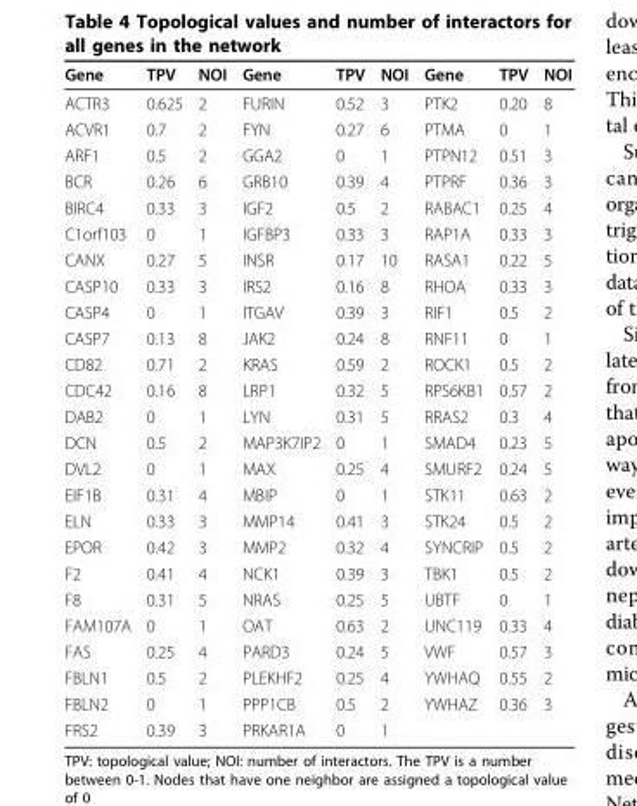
<table><thead><tr><td>Gene</td><td>TPV</td><td>NOI</td><td>Gene</td><td>TPV</td><td>NOI</td><td>Gene</td><td>TPV</td><td>NOI</td></tr></thead><tbody><tr><td>ACTR3</td><td>0.625</td><td>2</td><td>FURIN</td><td>0.52</td><td>3</td><td>PTK2</td><td>0.20</td><td>8</td></tr><tr><td>ACVR1</td><td>0.7</td><td>2</td><td>FYN</td><td>0.27</td><td>6</td><td>PTMA</td><td>0</td><td>1</td></tr><tr><td>ARF1</td><td>0.5</td><td>2</td><td>GGA2</td><td>0</td><td>1</td><td>PTPN12</td><td>0.51</td><td>3</td></tr><tr><td>BCR</td><td>0.26</td><td>6</td><td>GRB10</td><td>0.39</td><td>4</td><td>PTPRF</td><td>0.36</td><td>3</td></tr><tr><td>BIRC4</td><td>0.33</td><td>3</td><td>IGF2</td><td>0.5</td><td>2</td><td>RABAC1</td><td>0.25</td><td>4</td></tr><tr><td>C1orf103</td><td>0</td><td>1</td><td>IGFBP3</td><td>0.33</td><td>3</td><td>RAP1A</td><td>0.33</td><td>3</td></tr><tr><td>CANX</td><td>0.27</td><td>5</td><td>INSR</td><td>0.17</td><td>10</td><td>RASA1</td><td>0.22</td><td>5</td></tr><tr><td>CASP10</td><td>0.33</td><td>3</td><td>IRS2</td><td>0.16</td><td>8</td><td>RHOA</td><td>0.33</td><td>3</td></tr><tr><td>CASP4</td><td>0</td><td>1</td><td>ITGAV</td><td>0.39</td><td>3</td><td>RIF1</td><td>0.5</td><td>2</td></tr><tr><td>CASP7</td><td>0.13</td><td>8</td><td>JAK2</td><td>0.24</td><td>8</td><td>RNF11</td><td>0</td><td>1</td></tr><tr><td>CD82</td><td>0.71</td><td>2</td><td>KRAS</td><td>0.59</td><td>2</td><td>ROCK1</td><td>0.5</td><td>2</td></tr><tr><td>CDC42</td><td>0.16</td><td>8</td><td>LRP1</td><td>0.32</td><td>5</td><td>RPS6KB1</td><td>0.57</td><td>2</td></tr><tr><td>DAB2</td><td>0</td><td>1</td><td>LYN</td><td>0.31</td><td>5</td><td>RRAS2</td><td>0.3</td><td>4</td></tr><tr><td>DCN</td><td>0.5</td><td>2</td><td>MAP3K7IP2</td><td>0</td><td>1</td><td>SMAD4</td><td>0.23</td><td>5</td></tr><tr><td>DVL2</td><td>0</td><td>1</td><td>MAX</td><td>0.25</td><td>4</td><td>SMURF2</td><td>0.24</td><td>5</td></tr><tr><td>EIF1B</td><td>0.31</td><td>4</td><td>MBIP</td><td>0</td><td>1</td><td>STK11</td><td>0.63</td><td>2</td></tr><tr><td>ELN</td><td>0.33</td><td>3</td><td>MMP14</td><td>0.41</td><td>3</td><td>STK24</td><td>0.5</td><td>2</td></tr><tr><td>EPOR</td><td>0.42</td><td>3</td><td>MMP2</td><td>0.32</td><td>4</td><td>SYNCRIP</td><td>0.5</td><td>2</td></tr><tr><td>F2</td><td>0.41</td><td>4</td><td>NCK1</td><td>0.39</td><td>3</td><td>TBK1</td><td>0.5</td><td>2</td></tr><tr><td>F8</td><td>0.31</td><td>5</td><td>NRAS</td><td>0.25</td><td>5</td><td>UBTF</td><td>0</td><td>1</td></tr><tr><td>FAM107A</td><td>0</td><td>1</td><td>OAT</td><td>0.63</td><td>2</td><td>UNC119</td><td>0.33</td><td>4</td></tr><tr><td>FAS</td><td>0.25</td><td>4</td><td>PARD3</td><td>0.24</td><td>5</td><td>VWF</td><td>0.57</td><td>3</td></tr><tr><td>FBLN1</td><td>0.5</td><td>2</td><td>PLEKHF2</td><td>0.25</td><td>4</td><td>YWHAQ</td><td>0.55</td><td>2</td></tr><tr><td>FBLN2</td><td>0</td><td>1</td><td>PPP1CB</td><td>0.5</td><td>2</td><td>YWHAZ</td><td>0.36</td><td>3</td></tr><tr><td>FRS2</td><td>0.39</td><td>3</td><td>PRKAR1A</td><td>0</td><td>1</td><td></td><td></td><td></td></tr></tbody></table>